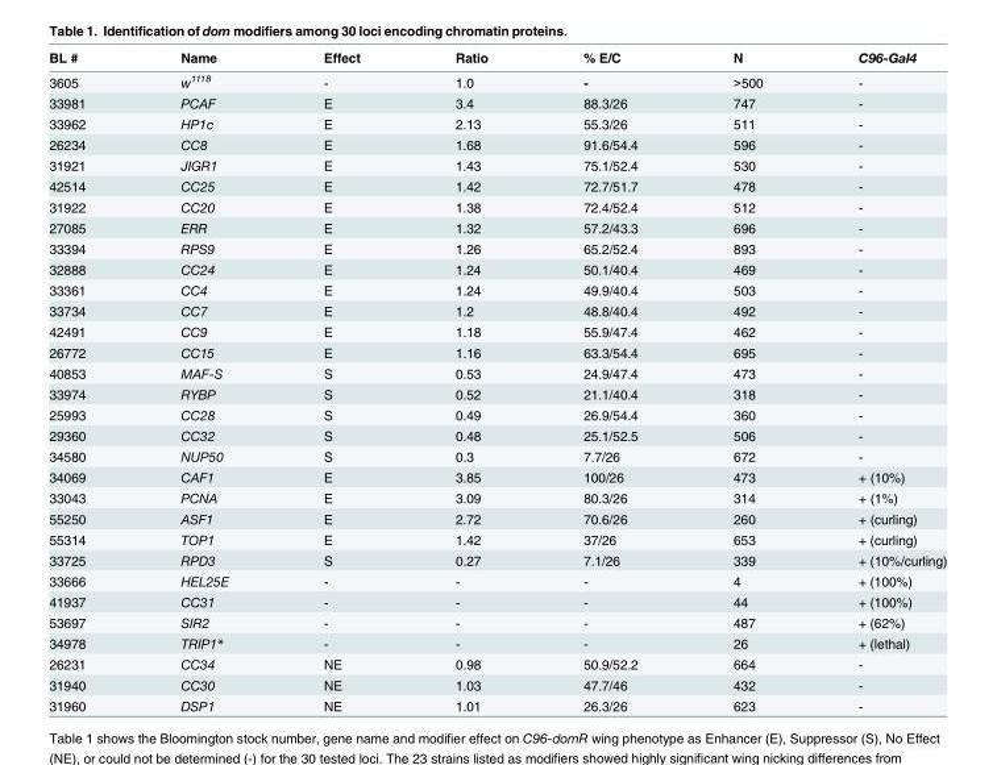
<table><thead><tr><td>BL #</td><td>Name</td><td>Effect</td><td>Ratio</td><td>% E/C</td><td>N</td><td>C96-Gal4</td></tr></thead><tbody><tr><td>3605</td><td>w<sup>1118</sup></td><td>-</td><td>1.0</td><td>-</td><td>&gt;500</td><td>-</td></tr><tr><td>33981</td><td>PCAF</td><td>E</td><td>3.4</td><td>88.3/26</td><td>747</td><td>-</td></tr><tr><td>33962</td><td>HP1c</td><td>E</td><td>2.13</td><td>55.3/26</td><td>511</td><td>-</td></tr><tr><td>26234</td><td>CC8</td><td>E</td><td>1.68</td><td>91.6/54.4</td><td>596</td><td>-</td></tr><tr><td>31921</td><td>JIGR1</td><td>E</td><td>1.43</td><td>75.1/52.4</td><td>530</td><td>-</td></tr><tr><td>42514</td><td>CC25</td><td>E</td><td>1.42</td><td>72.7/51.7</td><td>478</td><td>-</td></tr><tr><td>31922</td><td>CC20</td><td>E</td><td>1.38</td><td>72.4/52.4</td><td>512</td><td>-</td></tr><tr><td>27085</td><td>ERR</td><td>E</td><td>1.32</td><td>57.2/43.3</td><td>696</td><td>-</td></tr><tr><td>33394</td><td>RPS9</td><td>E</td><td>1.26</td><td>65.2/52.4</td><td>893</td><td>-</td></tr><tr><td>32888</td><td>CC24</td><td>E</td><td>1.24</td><td>50.1/40.4</td><td>469</td><td>-</td></tr><tr><td>33361</td><td>CC4</td><td>E</td><td>1.24</td><td>49.9/40.4</td><td>503</td><td>-</td></tr><tr><td>33734</td><td>CC7</td><td>E</td><td>1.2</td><td>48.8/40.4</td><td>492</td><td>-</td></tr><tr><td>42491</td><td>CC9</td><td>E</td><td>1.18</td><td>55.9/47.4</td><td>462</td><td>-</td></tr><tr><td>26772</td><td>CC15</td><td>E</td><td>1.16</td><td>63.3/54.4</td><td>695</td><td>-</td></tr><tr><td>40853</td><td>MAF-S</td><td>S</td><td>0.53</td><td>24.9/47.4</td><td>473</td><td>-</td></tr><tr><td>33974</td><td>RYBP</td><td>S</td><td>0.52</td><td>21.1/40.4</td><td>318</td><td>-</td></tr><tr><td>25993</td><td>CC28</td><td>S</td><td>0.49</td><td>26.9/54.4</td><td>360</td><td>-</td></tr><tr><td>29360</td><td>CC32</td><td>S</td><td>0.48</td><td>25.1/52.5</td><td>506</td><td>-</td></tr><tr><td>34580</td><td>NUP50</td><td>S</td><td>0.3</td><td>7.7/26</td><td>672</td><td>-</td></tr><tr><td>34069</td><td>CAF1</td><td>E</td><td>3.85</td><td>100/26</td><td>473</td><td>+ (10%)</td></tr><tr><td>33043</td><td>PCNA</td><td>E</td><td>3.09</td><td>80.3/26</td><td>314</td><td>+ (1%)</td></tr><tr><td>55250</td><td>ASF1</td><td>E</td><td>2.72</td><td>70.6/26</td><td>260</td><td>+ (curling)</td></tr><tr><td>55314</td><td>TOP1</td><td>E</td><td>1.42</td><td>37/26</td><td>653</td><td>+ (curling)</td></tr><tr><td>33725</td><td>RPD3</td><td>S</td><td>0.27</td><td>7.1/26</td><td>339</td><td>+ (10%/curling)</td></tr><tr><td>33666</td><td>HEL25E</td><td>-</td><td>-</td><td>-</td><td>4</td><td>+ (100%)</td></tr><tr><td>41937</td><td>CC31</td><td>-</td><td>-</td><td>-</td><td>44</td><td>+ (100%)</td></tr><tr><td>53697</td><td>SIR2</td><td>-</td><td>-</td><td>-</td><td>487</td><td>+ (62%)</td></tr><tr><td>34978</td><td>TRIP1*</td><td>-</td><td>-</td><td>-</td><td>26</td><td>+ (lethal)</td></tr><tr><td>26231</td><td>CC34</td><td>NE</td><td>0.98</td><td>50.9/52.2</td><td>664</td><td>-</td></tr><tr><td>31940</td><td>CC30</td><td>NE</td><td>1.03</td><td>47.7/46</td><td>432</td><td>-</td></tr><tr><td>31960</td><td>DSP1</td><td>NE</td><td>1.01</td><td>26.3/26</td><td>623</td><td>-</td></tr></tbody></table>